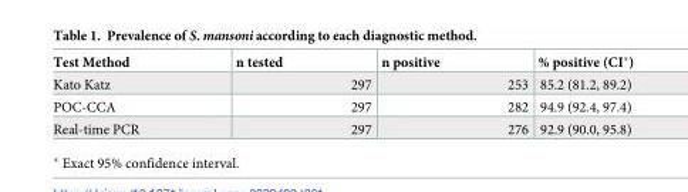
<table><thead><tr><td>Test Method</td><td>n tested</td><td>n positive</td><td>% positive (CI*)</td></tr></thead><tbody><tr><td>Kato Katz</td><td>297</td><td>253</td><td>85.2 (81.2, 89.2)</td></tr><tr><td>POC-CCA</td><td>297</td><td>282</td><td>94.9 (92.4, 97.4)</td></tr><tr><td>Real-time PCR</td><td>297</td><td>276</td><td>92.9 (90.0, 95.8)</td></tr></tbody></table>